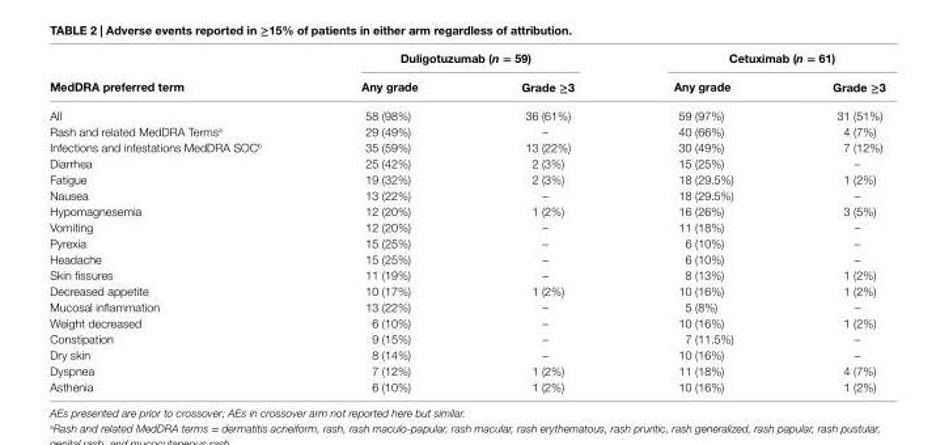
<table><thead><tr><td rowspan="2">MedDra preferred term</td><td colspan="2">Duligotuzumab (n = 59)</td><td colspan="2">Cetuximab (n = 61)</td></tr><tr><td>any grade</td><td>Grade ≥3</td><td>any grade</td><td>Grade ≥3</td></tr></thead><tbody><tr><td>All</td><td>58 (98%)</td><td>36 (61%)</td><td>59 (97%)</td><td>31 (51%)</td></tr><tr><td>Rash and related MedDRA Terms<sup>a</sup></td><td>29 (49%)</td><td>–</td><td>40 (66%)</td><td>4 (7%)</td></tr><tr><td>Infections and infestations MedDRA SOC<sup>b</sup></td><td>35 (59%)</td><td>13 (22%)</td><td>30 (49%)</td><td>7 (12%)</td></tr><tr><td>Diarrhea</td><td>25 (42%)</td><td>2 (3%)</td><td>15 (25%)</td><td>–</td></tr><tr><td>Fatigue</td><td>19 (32%)</td><td>2 (3%)</td><td>18 (29.5%)</td><td>1 (2%)</td></tr><tr><td>Nausea</td><td>13 (22%)</td><td>–</td><td>18 (29.5%)</td><td>–</td></tr><tr><td>Hypomagnesemia</td><td>12 (20%)</td><td>1 (2%)</td><td>16 (26%)</td><td>3 (5%)</td></tr><tr><td>Vomiting</td><td>12 (20%)</td><td>–</td><td>11 (18%)</td><td>–</td></tr><tr><td>Pyrexia</td><td>15 (25%)</td><td>–</td><td>6 (10%)</td><td>–</td></tr><tr><td>Headache</td><td>15 (25%)</td><td>–</td><td>6 (10%)</td><td>–</td></tr><tr><td>Skin fissures</td><td>11 (19%)</td><td>–</td><td>8 (13%)</td><td>1 (2%)</td></tr><tr><td>Decreased appetite</td><td>10 (17%)</td><td>1 (2%)</td><td>10 (16%)</td><td>1 (2%)</td></tr><tr><td>Mucosal inflammation</td><td>13 (22%)</td><td>–</td><td>5 (8%)</td><td>–</td></tr><tr><td>Weight decreased</td><td>6 (10%)</td><td>–</td><td>10 (16%)</td><td>1 (2%)</td></tr><tr><td>Constipation</td><td>9 (15%)</td><td>–</td><td>7 (11.5%)</td><td>–</td></tr><tr><td>Dry skin</td><td>8 (14%)</td><td>–</td><td>10 (16%)</td><td>–</td></tr><tr><td>Dyspnea</td><td>7 (12%)</td><td>1 (2%)</td><td>11 (18%)</td><td>4 (7%)</td></tr><tr><td>Asthenia</td><td>6 (10%)</td><td>1 (2%)</td><td>10 (16%)</td><td>1 (2%)</td></tr></tbody></table>